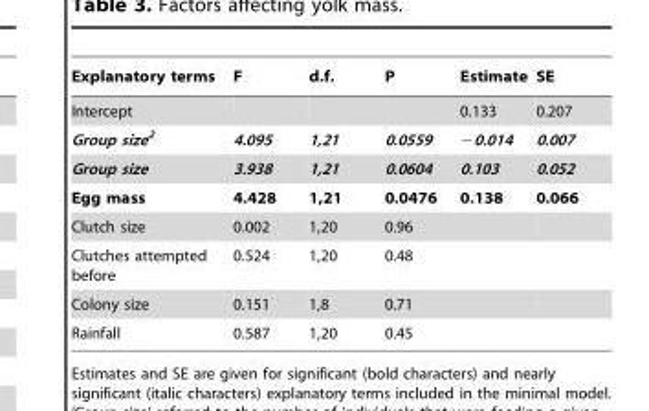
<table><thead><tr><td>Explanatory terms</td><td>F</td><td>d.f.</td><td>P</td><td>Estimate</td><td>SE</td></tr></thead><tbody><tr><td>Intercept</td><td></td><td></td><td></td><td>0.133</td><td>0.207</td></tr><tr><td>Group size<sup>2</sup></td><td>4.095</td><td>1,21</td><td>0.0559</td><td>−0.014</td><td>0.007</td></tr><tr><td>Group size</td><td>3.938</td><td>1,21</td><td>0.0604</td><td>0.103</td><td>0.052</td></tr><tr><td>Egg mass</td><td>4.428</td><td>1,21</td><td>0.0476</td><td>0.138</td><td>0.066</td></tr><tr><td>Clutch size</td><td>0.002</td><td>1,20</td><td>0.96</td><td></td><td></td></tr><tr><td>Clutches attempted before</td><td>0.524</td><td>1,20</td><td>0.48</td><td></td><td></td></tr><tr><td>Colony size</td><td>0.151</td><td>1,8</td><td>0.71</td><td></td><td></td></tr><tr><td>Rainfall</td><td>0.587</td><td>1,20</td><td>0.45</td><td></td><td></td></tr></tbody></table>